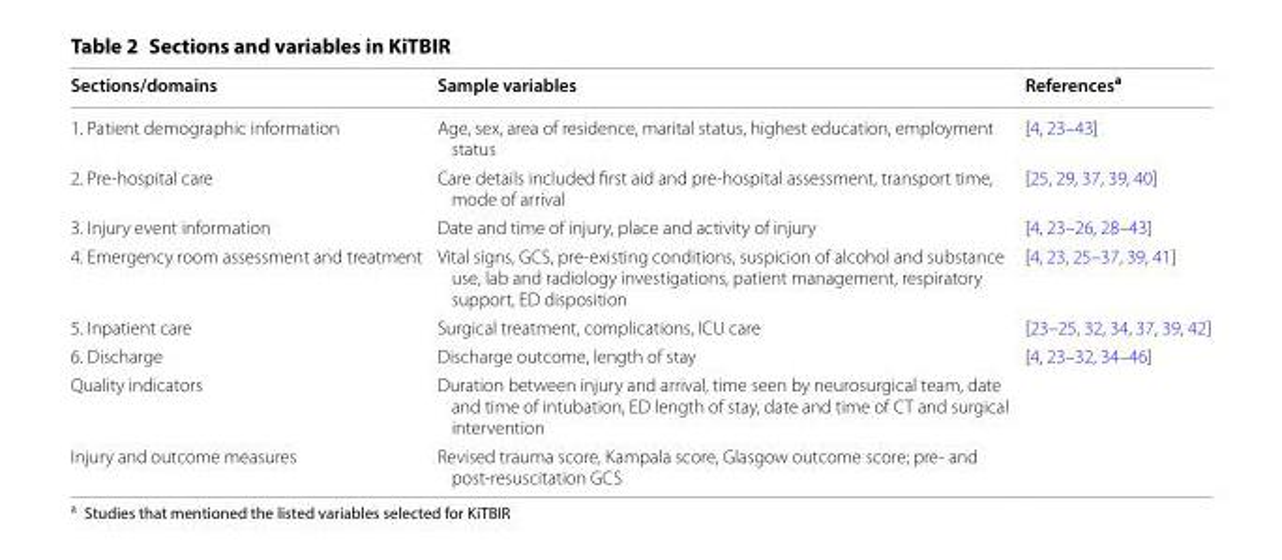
<table><thead><tr><td>Sections/domains</td><td>Sample variables</td><td>References<sup>a</sup></td></tr></thead><tbody><tr><td>1. Patient demographic information</td><td>Age, sex, area of residence, marital status, highest education, employment status</td><td>[4, 23–43]</td></tr><tr><td>2. Pre-hospital care</td><td>Care details included first aid and pre-hospital assessment, transport time, mode of arrival</td><td>[25, 29, 37, 39, 40]</td></tr><tr><td>3. Injury event information</td><td>Date and time of injury, place and activity of injury</td><td>[4, 23–26, 28–43]</td></tr><tr><td>4. Emergency room assessment and treatment</td><td>Vital signs, GCS, pre-existing conditions, suspicion of alcohol and substance use, lab and radiology investigations, patient management, respiratory support, ED disposition</td><td>[4, 23, 25–37, 39, 41]</td></tr><tr><td>5. Inpatient care</td><td>Surgical treatment, complications, ICU care</td><td>[23–25, 32, 34, 37, 39, 42]</td></tr><tr><td>6. Discharge</td><td>Discharge outcome, length of stay</td><td>[4, 23–32, 34–46]</td></tr><tr><td>Quality indicators</td><td>Duration between injury and arrival, time seen by neurosurgical team, date and time of intubation, ED length of stay, date and time of CT and surgical intervention</td><td></td></tr><tr><td>Injury and outcome measures</td><td>Revised trauma score, Kampala score, Glasgow outcome score; pre- and post-resuscitation GCS</td><td></td></tr></tbody></table>